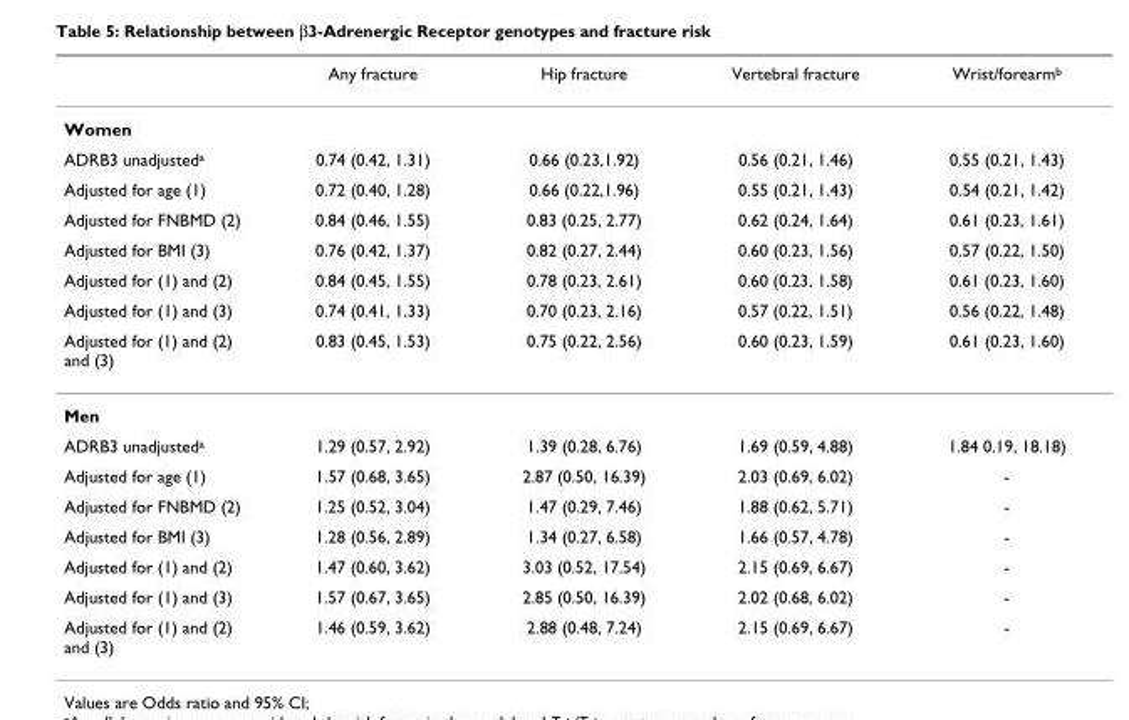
<table><thead><tr><td></td><td>Any fracture</td><td>Hip fracture</td><td>Vertebral fracture</td><td>Wrist/forearm<sup>b</sup></td></tr></thead><tbody><tr><td colspan="5">Women</td></tr><tr><td>ADRB3 unadjusted<sup>a</sup></td><td>0.74 (0.42, 1.31)</td><td>0.66 (0.23,1.92)</td><td>0.56 (0.21, 1.46)</td><td>0.55 (0.21, 1.43)</td></tr><tr><td>Adjusted for age (1)</td><td>0.72 (0.40, 1.28)</td><td>0.66 (0.22,1.96)</td><td>0.55 (0.21, 1.43)</td><td>0.54 (0.21, 1.42)</td></tr><tr><td>Adjusted for FNBMD (2)</td><td>0.84 (0.46, 1.55)</td><td>0.83 (0.25, 2.77)</td><td>0.62 (0.24, 1.64)</td><td>0.61 (0.23, 1.61)</td></tr><tr><td>Adjusted for BMI (3)</td><td>0.76 (0.42, 1.37)</td><td>0.82 (0.27, 2.44)</td><td>0.60 (0.23, 1.56)</td><td>0.57 (0.22, 1.50)</td></tr><tr><td>Adjusted for (1) and (2)</td><td>0.84 (0.45, 1.55)</td><td>0.78 (0.23, 2.61)</td><td>0.60 (0.23, 1.58)</td><td>0.61 (0.23, 1.60)</td></tr><tr><td>Adjusted for (1) and (3)</td><td>0.74 (0.41, 1.33)</td><td>0.70 (0.23, 2.16)</td><td>0.57 (0.22, 1.51)</td><td>0.56 (0.22, 1.48)</td></tr><tr><td>Adjusted for (1) and (2) and (3)</td><td>0.83 (0.45, 1.53)</td><td>0.75 (0.22, 2.56)</td><td>0.60 (0.23, 1.59)</td><td>0.61 (0.23, 1.60)</td></tr><tr><td colspan="5">Men</td></tr><tr><td>ADRB3 unadjusted<sup>a</sup></td><td>1.29 (0.57, 2.92)</td><td>1.39 (0.28, 6.76)</td><td>1.69 (0.59, 4.88)</td><td>1.84 0.19, 18.18)</td></tr><tr><td>Adjusted for age (1)</td><td>1.57 (0.68, 3.65)</td><td>2.87 (0.50, 16.39)</td><td>2.03 (0.69, 6.02)</td><td>-</td></tr><tr><td>Adjusted for FNBMD (2)</td><td>1.25 (0.52, 3.04)</td><td>1.47 (0.29, 7.46)</td><td>1.88 (0.62, 5.71)</td><td>-</td></tr><tr><td>Adjusted for BMI (3)</td><td>1.28 (0.56, 2.89)</td><td>1.34 (0.27, 6.58)</td><td>1.66 (0.57, 4.78)</td><td>-</td></tr><tr><td>Adjusted for (1) and (2)</td><td>1.47 (0.60, 3.62)</td><td>3.03 (0.52, 17.54)</td><td>2.15 (0.69, 6.67)</td><td>-</td></tr><tr><td>Adjusted for (1) and (3)</td><td>1.57 (0.67, 3.65)</td><td>2.85 (0.50, 16.39)</td><td>2.02 (0.68, 6.02)</td><td>-</td></tr><tr><td>Adjusted for (1) and (2) and (3)</td><td>1.46 (0.59, 3.62)</td><td>2.88 (0.48, 7.24)</td><td>2.15 (0.69, 6.67)</td><td>-</td></tr></tbody></table>